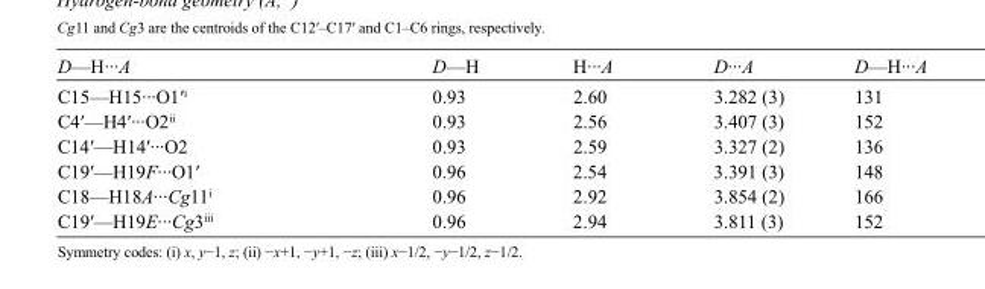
<table><tbody><tr><td>D—H···A</td><td>D—H</td><td>H···A</td><td>D···A</td><td>D—H···A</td></tr><tr><td>C15—H15···O1′<sup>i</sup></td><td>0.93</td><td>2.60</td><td>3.282 (3)</td><td>131</td></tr><tr><td>C4′—H4′···O2<sup>ii</sup></td><td>0.93</td><td>2.56</td><td>3.407 (3)</td><td>152</td></tr><tr><td>C14′—H14′···O2</td><td>0.93</td><td>2.59</td><td>3.327 (2)</td><td>136</td></tr><tr><td>C19′—H19F···O1′</td><td>0.96</td><td>2.54</td><td>3.391 (3)</td><td>148</td></tr><tr><td>C18—H18A···Cg11<sup>i</sup></td><td>0.96</td><td>2.92</td><td>3.854 (2)</td><td>166</td></tr><tr><td>C19′—H19E···Cg3<sup>iii</sup></td><td>0.96</td><td>2.94</td><td>3.811 (3)</td><td>152</td></tr></tbody></table>